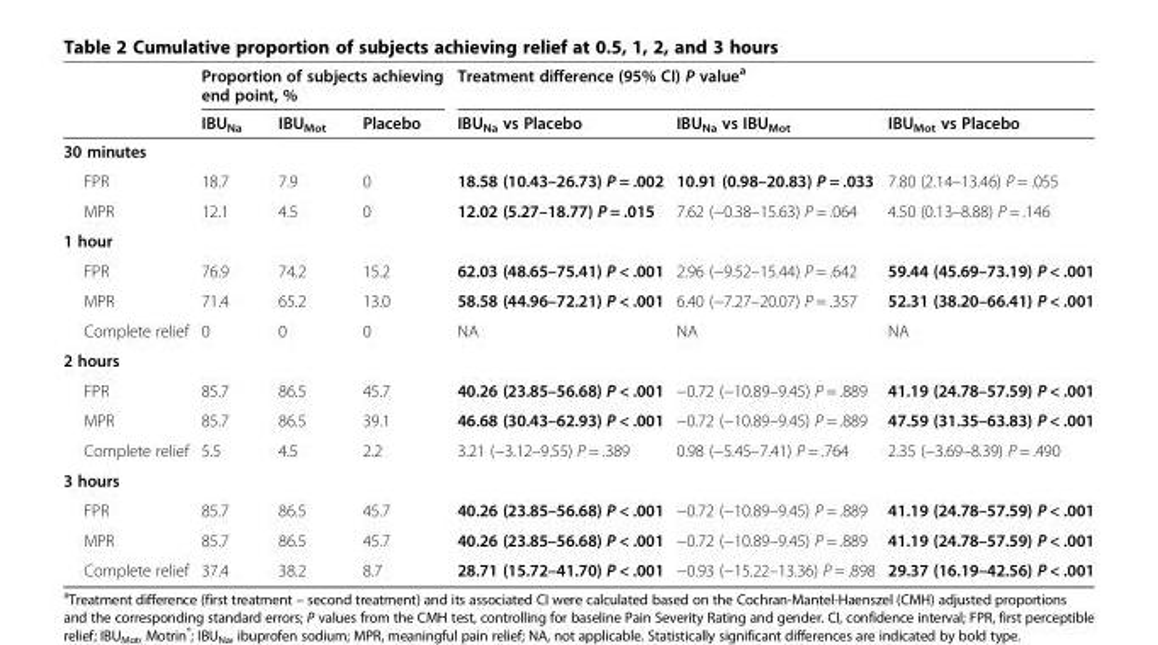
<table><thead><tr><td rowspan="2"></td><td colspan="3">Proportion of subjects achieving end point, %</td><td colspan="3">Treatment difference (95% CI) P value<sup>a</sup></td></tr><tr><td>IBU<sub>Na</sub></td><td>IBU<sub>Mot</sub></td><td>Placebo</td><td>IBU<sub>Na</sub> vs Placebo</td><td>IBU<sub>Na</sub> vs IBU<sub>Mot</sub></td><td>IBU<sub>Mot</sub> vs Placebo</td></tr></thead><tbody><tr><td colspan="7">30 minutes</td></tr><tr><td>FPR</td><td>18.7</td><td>7.9</td><td>0</td><td>18.58 (10.43–26.73) P = .002</td><td>10.91 (0.98–20.83) P = .033</td><td>7.80 (2.14–13.46) P = .055</td></tr><tr><td>MPR</td><td>12.1</td><td>4.5</td><td>0</td><td>12.02 (5.27–18.77) P = .015</td><td>7.62 (−0.38–15.63) P = .064</td><td>4.50 (0.13–8.88) P = .146</td></tr><tr><td colspan="7">1 hour</td></tr><tr><td>FPR</td><td>76.9</td><td>74.2</td><td>15.2</td><td>62.03 (48.65–75.41) P &lt; .001</td><td>2.96 (−9.52–15.44) P = .642</td><td>59.44 (45.69–73.19) P &lt; .001</td></tr><tr><td>MPR</td><td>71.4</td><td>65.2</td><td>13.0</td><td>58.58 (44.96–72.21) P &lt; .001</td><td>6.40 (−7.27–20.07) P = .357</td><td>52.31 (38.20–66.41) P &lt; .001</td></tr><tr><td>Complete relief</td><td>0</td><td>0</td><td>0</td><td>NA</td><td>NA</td><td>NA</td></tr><tr><td colspan="7">2 hours</td></tr><tr><td>FPR</td><td>85.7</td><td>86.5</td><td>45.7</td><td>40.26 (23.85–56.68) P &lt; .001</td><td>−0.72 (−10.89–9.45) P = .889</td><td>41.19 (24.78–57.59) P &lt; .001</td></tr><tr><td>MPR</td><td>85.7</td><td>86.5</td><td>39.1</td><td>46.68 (30.43–62.93) P &lt; .001</td><td>−0.72 (−10.89–9.45) P = .889</td><td>47.59 (31.35–63.83) P &lt; .001</td></tr><tr><td>Complete relief</td><td>5.5</td><td>4.5</td><td>2.2</td><td>3.21 (−3.12–9.55) P = .389</td><td>0.98 (−5.45–7.41) P = .764</td><td>2.35 (−3.69–8.39) P = .490</td></tr><tr><td colspan="7">3 hours</td></tr><tr><td>FPR</td><td>85.7</td><td>86.5</td><td>45.7</td><td>40.26 (23.85–56.68) P &lt; .001</td><td>−0.72 (−10.89–9.45) P = .889</td><td>41.19 (24.78–57.59) P &lt; .001</td></tr><tr><td>MPR</td><td>85.7</td><td>86.5</td><td>45.7</td><td>40.26 (23.85–56.68) P &lt; .001</td><td>−0.72 (−10.89–9.45) P = .889</td><td>41.19 (24.78–57.59) P &lt; .001</td></tr><tr><td>Complete relief</td><td>37.4</td><td>38.2</td><td>8.7</td><td>28.71 (15.72–41.70) P &lt; .001</td><td>−0.93 (−15.22–13.36) P = .898</td><td>29.37 (16.19–42.56) P &lt; .001</td></tr></tbody></table>